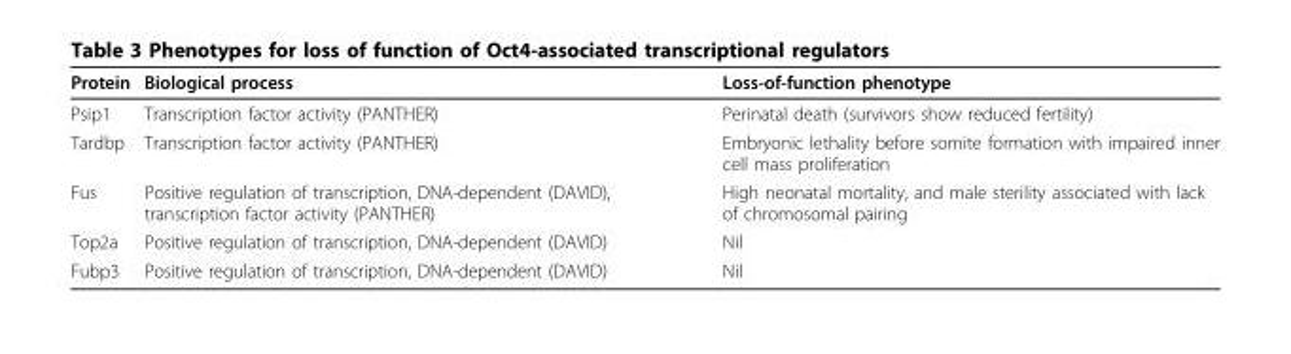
<table><thead><tr><td>Protein</td><td>Biological process</td><td>Loss-of-function phenotype</td></tr></thead><tbody><tr><td>Psip1</td><td>Transcription factor activity (PANTHER)</td><td>Perinatal death (survivors show reduced fertility)</td></tr><tr><td>Tardbp</td><td>Transcription factor activity (PANTHER)</td><td>Embryonic lethality before somite formation with impaired inner cell mass proliferation</td></tr><tr><td>Fus</td><td>Positive regulation of transcription, DNA-dependent (DAVID), transcription factor activity (PANTHER)</td><td>High neonatal mortality, and male sterility associated with lack of chromosomal pairing</td></tr><tr><td>Top2a</td><td>Positive regulation of transcription, DNA-dependent (DAVID)</td><td>Nil</td></tr><tr><td>Fubp3</td><td>Positive regulation of transcription, DNA-dependent (DAVID)</td><td>Nil</td></tr></tbody></table>